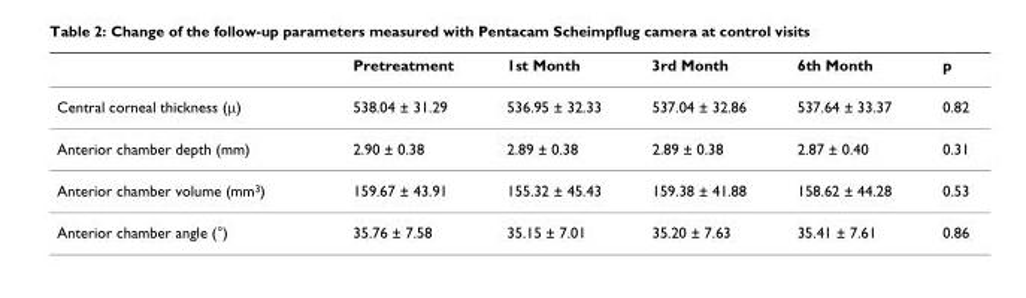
<table><thead><tr><td></td><td>Pretreatment</td><td>1st Month</td><td>3rd Month</td><td>6th Month</td><td>p</td></tr></thead><tbody><tr><td>Central corneal thickness (μ)</td><td>538.04 ± 31.29</td><td>536.95 ± 32.33</td><td>537.04 ± 32.86</td><td>537.64 ± 33.37</td><td>0.82</td></tr><tr><td>Anterior chamber depth (mm)</td><td>2.90 ± 0.38</td><td>2.89 ± 0.38</td><td>2.89 ± 0.38</td><td>2.87 ± 0.40</td><td>0.31</td></tr><tr><td>Anterior chamber volume (mm<sup>3</sup>)</td><td>159.67 ± 43.91</td><td>155.32 ± 45.43</td><td>159.38 ± 41.88</td><td>158.62 ± 44.28</td><td>0.53</td></tr><tr><td>Anterior chamber angle (°)</td><td>35.76 ± 7.58</td><td>35.15 ± 7.01</td><td>35.20 ± 7.63</td><td>35.41 ± 7.61</td><td>0.86</td></tr></tbody></table>